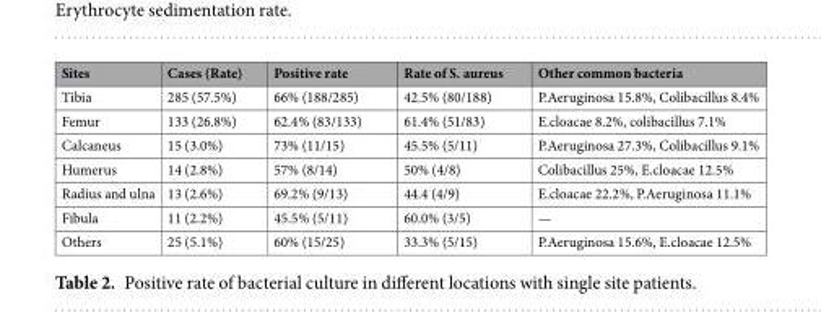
<table><thead><tr><td>Sites</td><td>Cases (Rate)</td><td>Positive rate</td><td>Rate of S. aureus</td><td>Other common bacteria</td></tr></thead><tbody><tr><td>Tibia</td><td>285 (57.5%)</td><td>66% (188/285)</td><td>42.5% (80/188)</td><td>P.Aeruginosa 15.8%, Colibacillus 8.4%</td></tr><tr><td>Femur</td><td>133 (26.8%)</td><td>62.4% (83/133)</td><td>61.4% (51/83)</td><td>E.cloacae 8.2%, colibacillus 7.1%</td></tr><tr><td>Calcaneus</td><td>15 (3.0%)</td><td>73% (11/15)</td><td>45.5% (5/11)</td><td>P.Aeruginosa 27.3%, Colibacillus 9.1%</td></tr><tr><td>Humerus</td><td>14 (2.8%)</td><td>57% (8/14)</td><td>50% (4/8)</td><td>Colibacillus 25%, E.cloacae 12.5%</td></tr><tr><td>Radius and ulna</td><td>13 (2.6%)</td><td>69.2% (9/13)</td><td>44.4 (4/9)</td><td>E.cloacae 22.2%, P.Aeruginosa 11.1%</td></tr><tr><td>Fibula</td><td>11 (2.2%)</td><td>45.5% (5/11)</td><td>60.0% (3/5)</td><td>—</td></tr><tr><td>Others</td><td>25 (5.1%)</td><td>60% (15/25)</td><td>33.3% (5/15)</td><td>P.Aeruginosa 15.6%, E.cloacae 12.5%</td></tr></tbody></table>